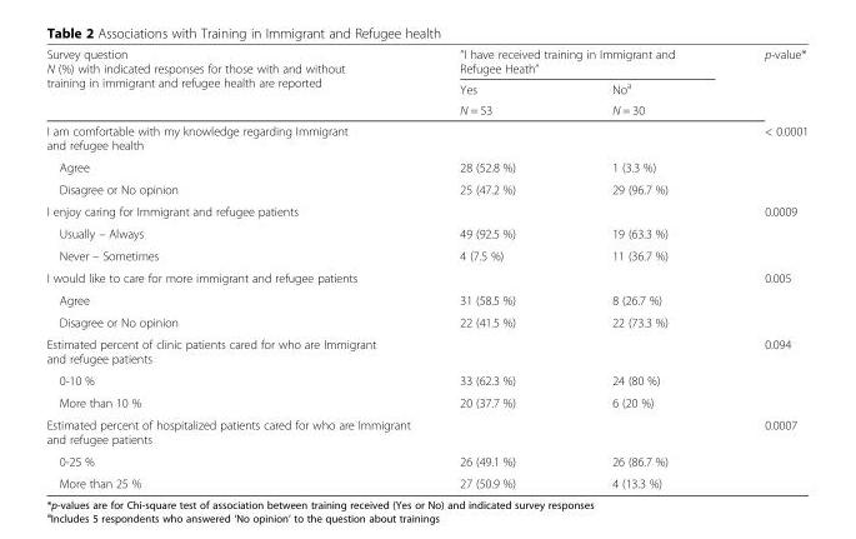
<table><thead><tr><td rowspan="3">Survey question N (%) with indicated responses for those with and without training in immigrant and refugee health are reported</td><td colspan="2">“I have received training in Immigrant and Refugee Heath”</td><td rowspan="3">p-value*</td></tr><tr><td rowspan="2">Yes N = 53</td><td rowspan="2">No<sup>a</sup> N = 30</td></tr><tr></tr></thead><tbody><tr><td>I am comfortable with my knowledge regarding Immigrant and refugee health</td><td></td><td></td><td>&lt; 0.0001</td></tr><tr><td>Agree</td><td>28 (52.8 %)</td><td>1 (3.3 %)</td><td></td></tr><tr><td>Disagree or No opinion</td><td>25 (47.2 %)</td><td>29 (96.7 %)</td><td></td></tr><tr><td>I enjoy caring for Immigrant and refugee patients</td><td></td><td></td><td>0.0009</td></tr><tr><td>Usually – Always</td><td>49 (92.5 %)</td><td>19 (63.3 %)</td><td></td></tr><tr><td>Never – Sometimes</td><td>4 (7.5 %)</td><td>11 (36.7 %)</td><td></td></tr><tr><td>I would like to care for more immigrant and refugee patients</td><td></td><td></td><td>0.005</td></tr><tr><td>Agree</td><td>31 (58.5 %)</td><td>8 (26.7 %)</td><td></td></tr><tr><td>Disagree or No opinion</td><td>22 (41.5 %)</td><td>22 (73.3 %)</td><td></td></tr><tr><td>Estimated percent of clinic patients cared for who are Immigrant and refugee patients</td><td></td><td></td><td>0.094</td></tr><tr><td>0-10 %</td><td>33 (62.3 %)</td><td>24 (80 %)</td><td></td></tr><tr><td>More than 10 %</td><td>20 (37.7 %)</td><td>6 (20 %)</td><td></td></tr><tr><td>Estimated percent of hospitalized patients cared for who are Immigrant and refugee patients</td><td></td><td></td><td>0.0007</td></tr><tr><td>0-25 %</td><td>26 (49.1 %)</td><td>26 (86.7 %)</td><td></td></tr><tr><td>More than 25 %</td><td>27 (50.9 %)</td><td>4 (13.3 %)</td><td></td></tr></tbody></table>